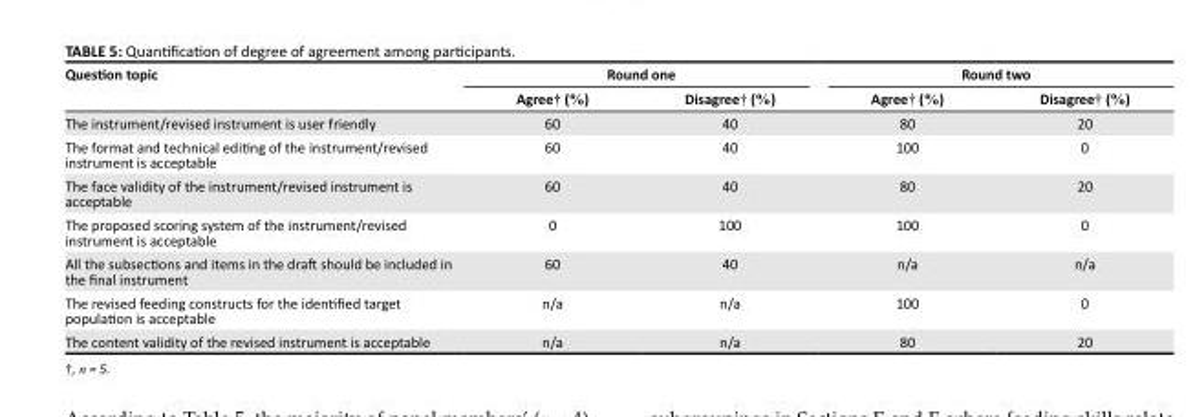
<table><thead><tr><td rowspan="2">Question topic</td><td colspan="2">Round one</td><td colspan="2">Round two</td></tr><tr><td>Agree† (%)</td><td>Disagree† (%)</td><td>Agree† (%)</td><td>Disagree† (%)</td></tr></thead><tbody><tr><td>The instrument/revised instrument is user friendly</td><td>60</td><td>40</td><td>80</td><td>20</td></tr><tr><td>The format and technical editing of the instrument/revised instrument is acceptable</td><td>60</td><td>40</td><td>100</td><td>0</td></tr><tr><td>The face validity of the instrument/revised instrument is acceptable</td><td>60</td><td>40</td><td>80</td><td>20</td></tr><tr><td>The proposed scoring system of the instrument/revised instrument is acceptable</td><td>0</td><td>100</td><td>100</td><td>0</td></tr><tr><td>All the subsections and items in the draft should be included in the final instrument</td><td>60</td><td>40</td><td>n/a</td><td>n/a</td></tr><tr><td>The revised feeding constructs for the identified target population is acceptable</td><td>n/a</td><td>n/a</td><td>100</td><td>0</td></tr><tr><td>The content validity of the revised instrument is acceptable</td><td>n/a</td><td>n/a</td><td>80</td><td>20</td></tr></tbody></table>